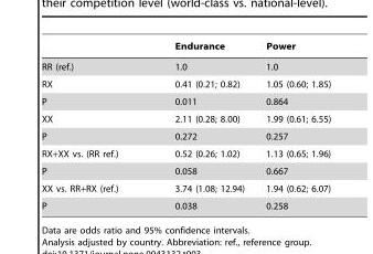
<table><thead><tr><td></td><td>Endurance</td><td>Power</td></tr></thead><tbody><tr><td>RR (ref.)</td><td>1.0</td><td>1.0</td></tr><tr><td>RX</td><td>0.41 (0.21; 0.82)</td><td>1.05 (0.60; 1.85)</td></tr><tr><td>P</td><td>0.011</td><td>0.864</td></tr><tr><td>XX</td><td>2.11 (0.28; 8.00)</td><td>1.99 (0.61; 6.55)</td></tr><tr><td>P</td><td>0.272</td><td>0.257</td></tr><tr><td>RX+XX vs. (RR ref.)</td><td>0.52 (0.26; 1.02)</td><td>1.13 (0.65; 1.96)</td></tr><tr><td>P</td><td>0.058</td><td>0.667</td></tr><tr><td>XX vs. RR+RX (ref.)</td><td>3.74 (1.08; 12.94)</td><td>1.94 (0.62; 6.07)</td></tr><tr><td>P</td><td>0.038</td><td>0.258</td></tr></tbody></table>